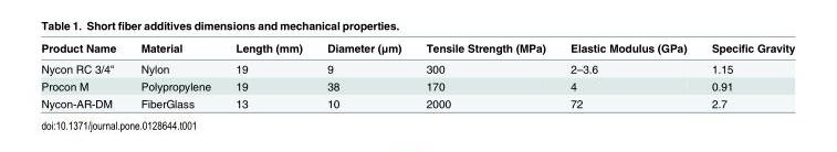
<table><thead><tr><td>Product Name</td><td>Material</td><td>Length (mm)</td><td>Diameter (μm)</td><td>Tensile Strength (MPa)</td><td>Elastic Modulus (GPa)</td><td>Specific Gravity</td></tr></thead><tbody><tr><td>Nycon RC 3/4&quot;</td><td>Nylon</td><td>19</td><td>9</td><td>300</td><td>2–3.6</td><td>1.15</td></tr><tr><td>Procon M</td><td>Polypropylene</td><td>19</td><td>38</td><td>170</td><td>4</td><td>0.91</td></tr><tr><td>Nycon-AR-DM</td><td>FiberGlass</td><td>13</td><td>10</td><td>2000</td><td>72</td><td>2.7</td></tr></tbody></table>